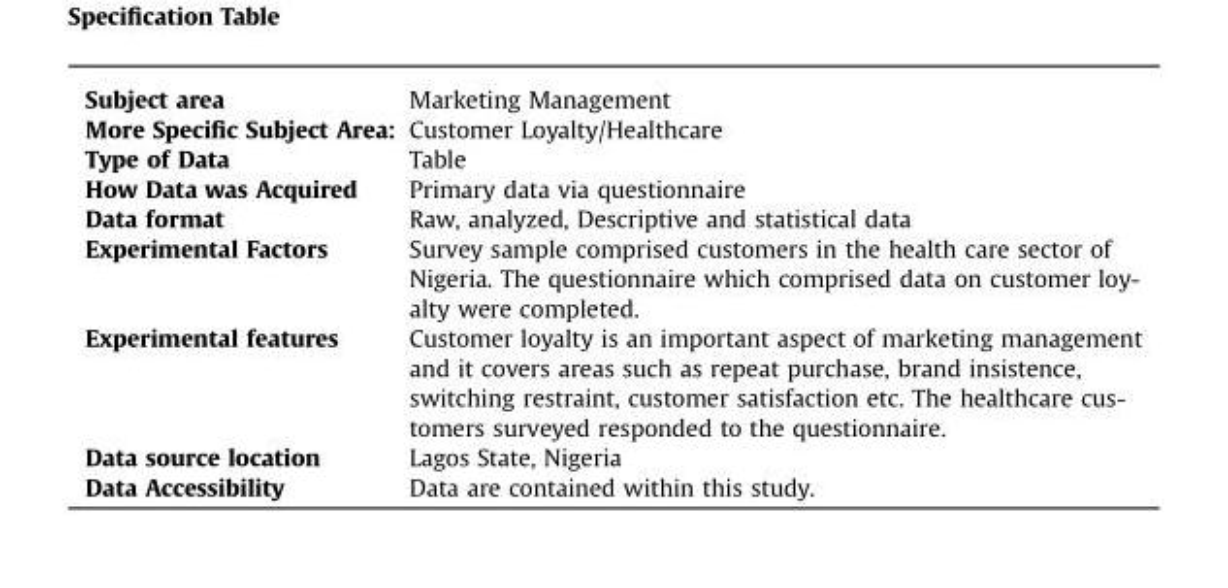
<table><tbody><tr><td>Subject area</td><td>Marketing Management</td></tr><tr><td>More Specific Subject Area:</td><td>Customer Loyalty/Healthcare</td></tr><tr><td>Type of Data</td><td>Table</td></tr><tr><td>How Data was Acquired</td><td>Primary data via questionnaire</td></tr><tr><td>Data format</td><td>Raw, analyzed, Descriptive and statistical data</td></tr><tr><td>Experimental Factors</td><td>Survey sample comprised customers in the health care sector of Nigeria. The questionnaire which comprised data on customer loy- alty were completed.</td></tr><tr><td>Experimental features</td><td>Customer loyalty is an important aspect of marketing management and it covers areas such as repeat purchase, brand insistence, switching restraint, customer satisfaction etc. The healthcare cus- tomers surveyed responded to the questionnaire.</td></tr><tr><td>Data source location</td><td>Lagos State, Nigeria</td></tr><tr><td>Data Accessibility</td><td>Data are contained within this study.</td></tr></tbody></table>